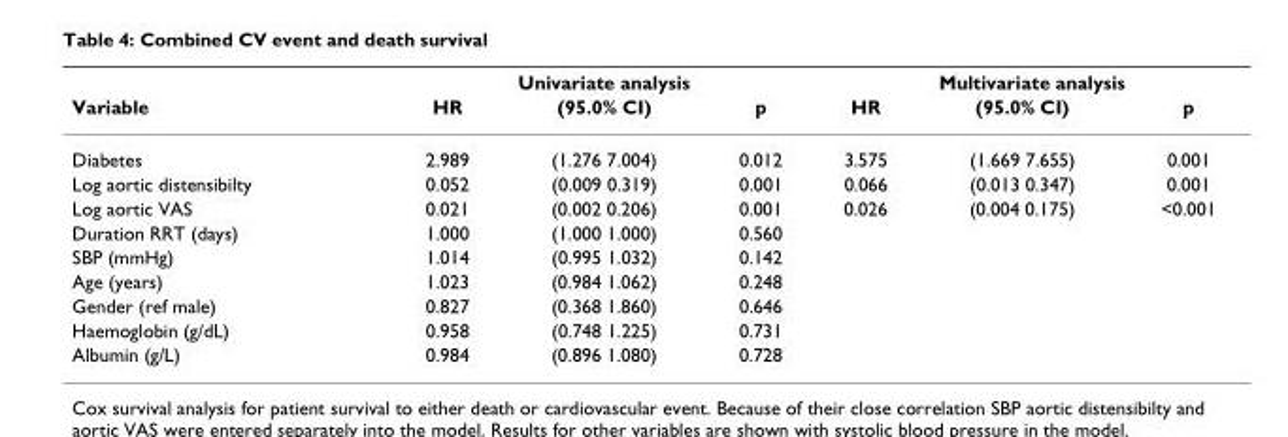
<table><thead><tr><td rowspan="2">Variable</td><td colspan="3">Univariate analysis</td><td colspan="3">Multivariate analysis</td></tr><tr><td>HR</td><td>(95.0% CI)</td><td>p</td><td>HR</td><td>(95.0% CI)</td><td>p</td></tr></thead><tbody><tr><td>Diabetes</td><td>2.989</td><td>(1.276 7.004)</td><td>0.012</td><td>3.575</td><td>(1.669 7.655)</td><td>0.001</td></tr><tr><td>Log aortic distensibilty</td><td>0.052</td><td>(0.009 0.319)</td><td>0.001</td><td>0.066</td><td>(0.013 0.347)</td><td>0.001</td></tr><tr><td>Log aortic VAS</td><td>0.021</td><td>(0.002 0.206)</td><td>0.001</td><td>0.026</td><td>(0.004 0.175)</td><td>&lt;0.001</td></tr><tr><td>Duration RRT (days)</td><td>1.000</td><td>(1.000 1.000)</td><td>0.560</td><td></td><td></td><td></td></tr><tr><td>SBP (mmHg)</td><td>1.014</td><td>(0.995 1.032)</td><td>0.142</td><td></td><td></td><td></td></tr><tr><td>Age (years)</td><td>1.023</td><td>(0.984 1.062)</td><td>0.248</td><td></td><td></td><td></td></tr><tr><td>Gender (ref male)</td><td>0.827</td><td>(0.368 1.860)</td><td>0.646</td><td></td><td></td><td></td></tr><tr><td>Haemoglobin (g/dL)</td><td>0.958</td><td>(0.748 1.225)</td><td>0.731</td><td></td><td></td><td></td></tr><tr><td>Albumin (g/L)</td><td>0.984</td><td>(0.896 1.080)</td><td>0.728</td><td></td><td></td><td></td></tr></tbody></table>